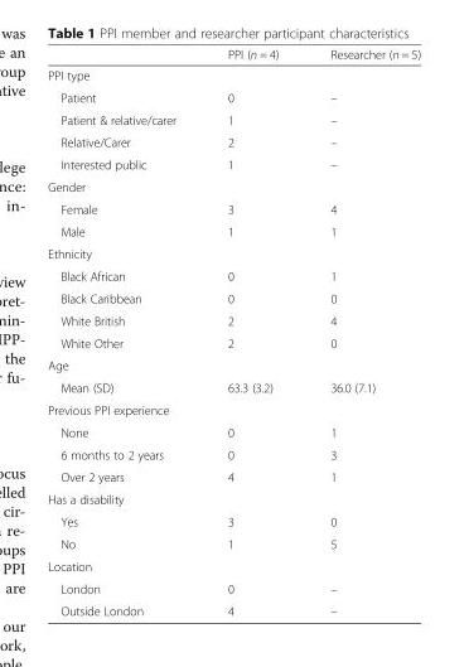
<table><thead><tr><td></td><td>PPI (n = 4)</td><td>Researcher (n = 5)</td></tr></thead><tbody><tr><td colspan="3">PPI type</td></tr><tr><td>Patient</td><td>0</td><td>–</td></tr><tr><td>Patient &amp; relative/carer</td><td>1</td><td>–</td></tr><tr><td>Relative/Carer</td><td>2</td><td>–</td></tr><tr><td>Interested public</td><td>1</td><td>–</td></tr><tr><td colspan="3">Gender</td></tr><tr><td>Female</td><td>3</td><td>4</td></tr><tr><td>Male</td><td>1</td><td>1</td></tr><tr><td colspan="3">Ethnicity</td></tr><tr><td>Black African</td><td>0</td><td>1</td></tr><tr><td>Black Caribbean</td><td>0</td><td>0</td></tr><tr><td>White British</td><td>2</td><td>4</td></tr><tr><td>White Other</td><td>2</td><td>0</td></tr><tr><td colspan="3">Age</td></tr><tr><td>Mean (SD)</td><td>63.3 (3.2)</td><td>36.0 (7.1)</td></tr><tr><td colspan="3">Previous PPI experience</td></tr><tr><td>None</td><td>0</td><td>1</td></tr><tr><td>6 months to 2 years</td><td>0</td><td>3</td></tr><tr><td>Over 2 years</td><td>4</td><td>1</td></tr><tr><td colspan="3">Has a disability</td></tr><tr><td>Yes</td><td>3</td><td>0</td></tr><tr><td>No</td><td>1</td><td>5</td></tr><tr><td colspan="3">Location</td></tr><tr><td>London</td><td>0</td><td>–</td></tr><tr><td>Outside London</td><td>4</td><td>–</td></tr></tbody></table>